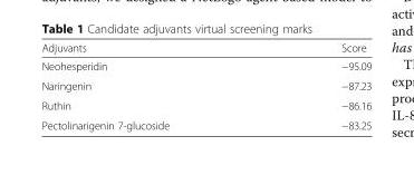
<table><thead><tr><td>Adjuvants</td><td>Score</td></tr></thead><tbody><tr><td>Neohesperidin</td><td>−95.09</td></tr><tr><td>Naringenin</td><td>−87.23</td></tr><tr><td>Ruthin</td><td>−86.16</td></tr><tr><td>Pectolinarigenin 7-glucoside</td><td>−83.25</td></tr></tbody></table>